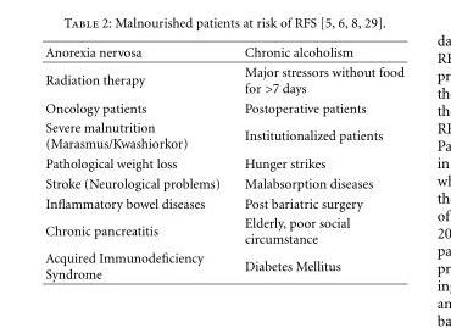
<table><thead><tr><td>Anorexia nervosa</td><td>Chronic alcoholism</td></tr></thead><tbody><tr><td>Radiation therapy</td><td>Major stressors without food for &gt;7 days</td></tr><tr><td>Oncology patients</td><td>Postoperative patients</td></tr><tr><td>Severe malnutrition (Marasmus/Kwashiorkor)</td><td>Institutionalized patients</td></tr><tr><td>Pathological weight loss</td><td>Hunger strikes</td></tr><tr><td>Stroke (Neurological problems)</td><td>Malabsorption diseases</td></tr><tr><td>Inflammatory bowel diseases</td><td>Post bariatric surgery</td></tr><tr><td>Chronic pancreatitis</td><td>Elderly, poor social circumstance</td></tr><tr><td>Acquired Immunodeficiency Syndrome</td><td>Diabetes Mellitus</td></tr></tbody></table>